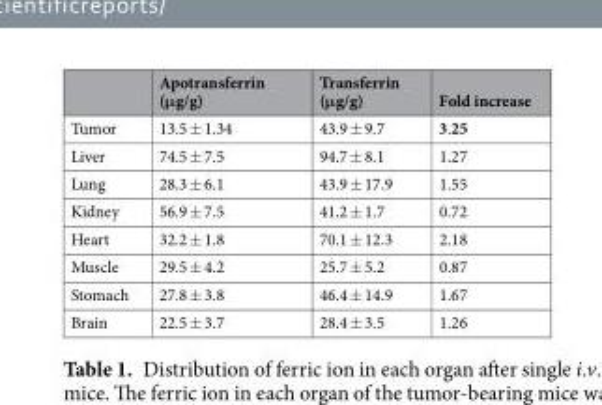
<table><thead><tr><td></td><td>Apotransferrin (μg/g)</td><td>Transferrin (μg/g)</td><td>Fold increase</td></tr></thead><tbody><tr><td>Tumor</td><td>13.5 ± 1.34</td><td>43.9 ± 9.7</td><td>3.25</td></tr><tr><td>Liver</td><td>74.5 ± 7.5</td><td>94.7 ± 8.1</td><td>1.27</td></tr><tr><td>Lung</td><td>28.3 ± 6.1</td><td>43.9 ± 17.9</td><td>1.55</td></tr><tr><td>Kidney</td><td>56.9 ± 7.5</td><td>41.2 ± 1.7</td><td>0.72</td></tr><tr><td>Heart</td><td>32.2 ± 1.8</td><td>70.1 ± 12.3</td><td>2.18</td></tr><tr><td>Muscle</td><td>29.5 ± 4.2</td><td>25.7 ± 5.2</td><td>0.87</td></tr><tr><td>Stomach</td><td>27.8 ± 3.8</td><td>46.4 ± 14.9</td><td>1.67</td></tr><tr><td>Brain</td><td>22.5 ± 3.7</td><td>28.4 ± 3.5</td><td>1.26</td></tr></tbody></table>